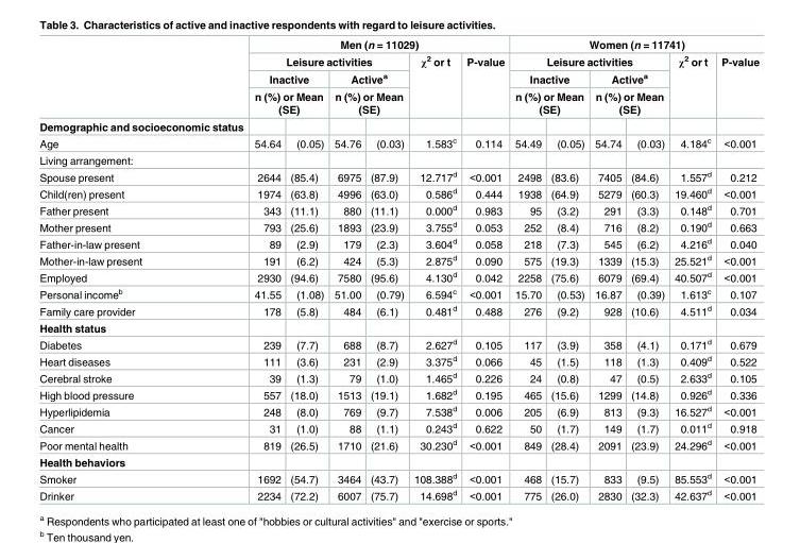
<table><thead><tr><td rowspan="5">Demographic and socioeconomic status</td><td colspan="6">Men (n = 11029)</td><td colspan="6">Women (n = 11741)</td></tr><tr><td colspan="4">Leisure activities</td><td rowspan="4">χ<sup>2</sup> or t</td><td rowspan="4">P-value</td><td colspan="4">Leisure activities</td><td rowspan="4">χ<sup>2</sup> or t</td><td rowspan="4">P-value</td></tr><tr><td rowspan="2" colspan="2">Inactive n (%) or Mean (SE)</td><td rowspan="2" colspan="2">Active<sup>a</sup> n (%) or Mean (SE)</td><td rowspan="2" colspan="2">Inactive n (%) or Mean (SE)</td><td rowspan="2" colspan="2">Active<sup>a</sup> n (%) or Mean (SE)</td></tr><tr></tr><tr><td></td><td></td><td></td><td></td><td></td><td></td><td></td><td></td></tr></thead><tbody><tr><td>Age</td><td>54.64</td><td>(0.05)</td><td>54.76</td><td>(0.03)</td><td>1.583<sup>c</sup></td><td>0.114</td><td>54.49</td><td>(0.05)</td><td>54.74</td><td>(0.03)</td><td>4.184<sup>c</sup></td><td>&lt;0.001</td></tr><tr><td colspan="13">Living arrangement:</td></tr><tr><td>Spouse present</td><td>2644</td><td>(85.4)</td><td>6975</td><td>(87.9)</td><td>12.717<sup>d</sup></td><td>&lt;0.001</td><td>2498</td><td>(83.6)</td><td>7405</td><td>(84.6)</td><td>1.557<sup>d</sup></td><td>0.212</td></tr><tr><td>Child(ren) present</td><td>1974</td><td>(63.8)</td><td>4996</td><td>(63.0)</td><td>0.586<sup>d</sup></td><td>0.444</td><td>1938</td><td>(64.9)</td><td>5279</td><td>(60.3)</td><td>19.460<sup>d</sup></td><td>&lt;0.001</td></tr><tr><td>Father present</td><td>343</td><td>(11.1)</td><td>880</td><td>(11.1)</td><td>0.000<sup>d</sup></td><td>0.983</td><td>95</td><td>(3.2)</td><td>291</td><td>(3.3)</td><td>0.148<sup>d</sup></td><td>0.701</td></tr><tr><td>Mother present</td><td>793</td><td>(25.6)</td><td>1893</td><td>(23.9)</td><td>3.755<sup>d</sup></td><td>0.053</td><td>252</td><td>(8.4)</td><td>716</td><td>(8.2)</td><td>0.190<sup>d</sup></td><td>0.663</td></tr><tr><td>Father-in-law present</td><td>89</td><td>(2.9)</td><td>179</td><td>(2.3)</td><td>3.604<sup>d</sup></td><td>0.058</td><td>218</td><td>(7.3)</td><td>545</td><td>(6.2)</td><td>4.216<sup>d</sup></td><td>0.040</td></tr><tr><td>Mother-in-law present</td><td>191</td><td>(6.2)</td><td>424</td><td>(5.3)</td><td>2.875<sup>d</sup></td><td>0.090</td><td>575</td><td>(19.3)</td><td>1339</td><td>(15.3)</td><td>25.521<sup>d</sup></td><td>&lt;0.001</td></tr><tr><td>Employed</td><td>2930</td><td>(94.6)</td><td>7580</td><td>(95.6)</td><td>4.130<sup>d</sup></td><td>0.042</td><td>2258</td><td>(75.6)</td><td>6079</td><td>(69.4)</td><td>40.507<sup>d</sup></td><td>&lt;0.001</td></tr><tr><td>Personal income<sup>b</sup></td><td>41.55</td><td>(1.08)</td><td>51.00</td><td>(0.79)</td><td>6.594<sup>c</sup></td><td>&lt;0.001</td><td>15.70</td><td>(0.53)</td><td>16.87</td><td>(0.39)</td><td>1.613<sup>c</sup></td><td>0.107</td></tr><tr><td>Family care provider</td><td>178</td><td>(5.8)</td><td>484</td><td>(6.1)</td><td>0.481<sup>d</sup></td><td>0.488</td><td>276</td><td>(9.2)</td><td>928</td><td>(10.6)</td><td>4.511<sup>d</sup></td><td>0.034</td></tr><tr><td colspan="13">Health status</td></tr><tr><td>Diabetes</td><td>239</td><td>(7.7)</td><td>688</td><td>(8.7)</td><td>2.627<sup>d</sup></td><td>0.105</td><td>117</td><td>(3.9)</td><td>358</td><td>(4.1)</td><td>0.171<sup>d</sup></td><td>0.679</td></tr><tr><td>Heart diseases</td><td>111</td><td>(3.6)</td><td>231</td><td>(2.9)</td><td>3.375<sup>d</sup></td><td>0.066</td><td>45</td><td>(1.5)</td><td>118</td><td>(1.3)</td><td>0.409<sup>d</sup></td><td>0.522</td></tr><tr><td>Cerebral stroke</td><td>39</td><td>(1.3)</td><td>79</td><td>(1.0)</td><td>1.465<sup>d</sup></td><td>0.226</td><td>24</td><td>(0.8)</td><td>47</td><td>(0.5)</td><td>2.633<sup>d</sup></td><td>0.105</td></tr><tr><td>High blood pressure</td><td>557</td><td>(18.0)</td><td>1513</td><td>(19.1)</td><td>1.682<sup>d</sup></td><td>0.195</td><td>465</td><td>(15.6)</td><td>1299</td><td>(14.8)</td><td>0.926<sup>d</sup></td><td>0.336</td></tr><tr><td>Hyperlipidemia</td><td>248</td><td>(8.0)</td><td>769</td><td>(9.7)</td><td>7.538<sup>d</sup></td><td>0.006</td><td>205</td><td>(6.9)</td><td>813</td><td>(9.3)</td><td>16.527<sup>d</sup></td><td>&lt;0.001</td></tr><tr><td>Cancer</td><td>31</td><td>(1.0)</td><td>88</td><td>(1.1)</td><td>0.243<sup>d</sup></td><td>0.622</td><td>50</td><td>(1.7)</td><td>149</td><td>(1.7)</td><td>0.011<sup>d</sup></td><td>0.918</td></tr><tr><td>Poor mental health</td><td>819</td><td>(26.5)</td><td>1710</td><td>(21.6)</td><td>30.230<sup>d</sup></td><td>&lt;0.001</td><td>849</td><td>(28.4)</td><td>2091</td><td>(23.9)</td><td>24.296<sup>d</sup></td><td>&lt;0.001</td></tr><tr><td colspan="13">Health behaviors</td></tr><tr><td>Smoker</td><td>1692</td><td>(54.7)</td><td>3464</td><td>(43.7)</td><td>108.388<sup>d</sup></td><td>&lt;0.001</td><td>468</td><td>(15.7)</td><td>833</td><td>(9.5)</td><td>85.553<sup>d</sup></td><td>&lt;0.001</td></tr><tr><td>Drinker</td><td>2234</td><td>(72.2)</td><td>6007</td><td>(75.7)</td><td>14.698<sup>d</sup></td><td>&lt;0.001</td><td>775</td><td>(26.0)</td><td>2830</td><td>(32.3)</td><td>42.637<sup>d</sup></td><td>&lt;0.001</td></tr></tbody></table>